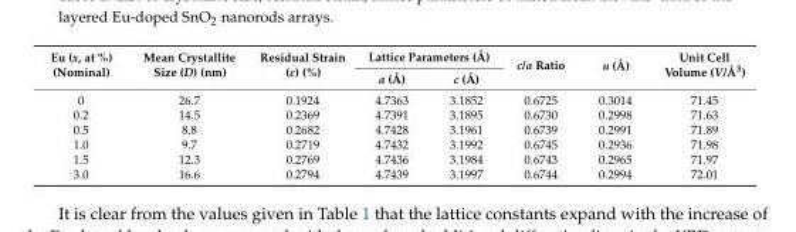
<table><thead><tr><td rowspan="2">Eu (x, at %) (Nominal)</td><td rowspan="2">Mean Crystallite Size (D) (nm)</td><td rowspan="2">Residual Strain (ε) (%)</td><td colspan="2">Lattice Parameters (Å)</td><td rowspan="2">c/a Ratio</td><td rowspan="2">u (Å)</td><td rowspan="2">Unit Cell Volume (V/Å<sup>3</sup>)</td></tr><tr><td>a (Å)</td><td>c (Å)</td></tr></thead><tbody><tr><td>0</td><td>26.7</td><td>0.1924</td><td>4.7363</td><td>3.1852</td><td>0.6725</td><td>0.3014</td><td>71.45</td></tr><tr><td>0.2</td><td>14.5</td><td>0.2369</td><td>4.7391</td><td>3.1895</td><td>0.6730</td><td>0.2998</td><td>71.63</td></tr><tr><td>0.5</td><td>8.8</td><td>0.2682</td><td>4.7428</td><td>3.1961</td><td>0.6739</td><td>0.2991</td><td>71.89</td></tr><tr><td>1.0</td><td>9.7</td><td>0.2719</td><td>4.7432</td><td>3.1992</td><td>0.6745</td><td>0.2936</td><td>71.98</td></tr><tr><td>1.5</td><td>12.3</td><td>0.2769</td><td>4.7436</td><td>3.1984</td><td>0.6743</td><td>0.2965</td><td>71.97</td></tr><tr><td>3.0</td><td>16.6</td><td>0.2794</td><td>4.7439</td><td>3.1997</td><td>0.6744</td><td>0.2994</td><td>72.01</td></tr></tbody></table>